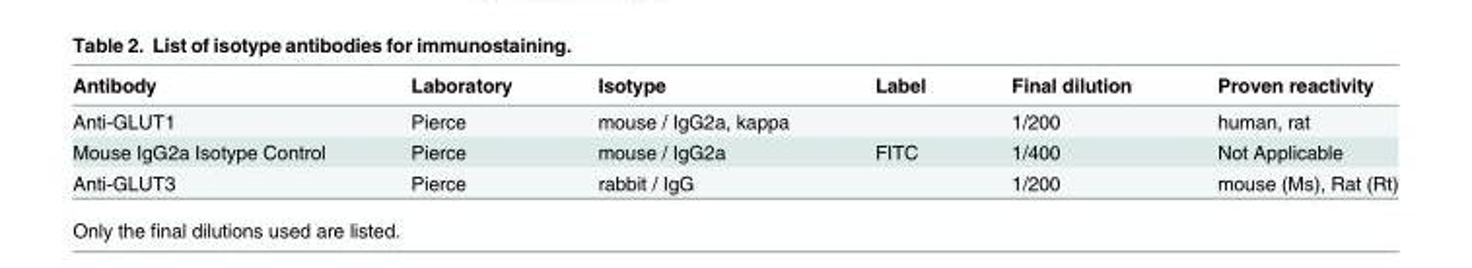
<table><thead><tr><td>Antibody</td><td>Laboratory</td><td>Isotype</td><td>Label</td><td>Final dilution</td><td>Proven reactivity</td></tr></thead><tbody><tr><td>Anti-GLUT1</td><td>Pierce</td><td>mouse / IgG2a, kappa</td><td></td><td>1/200</td><td>human, rat</td></tr><tr><td>Mouse IgG2a Isotype Control</td><td>Pierce</td><td>mouse / IgG2a</td><td>FITC</td><td>1/400</td><td>Not Applicable</td></tr><tr><td>Anti-GLUT3</td><td>Pierce</td><td>rabbit / IgG</td><td></td><td>1/200</td><td>mouse (Ms), Rat (Rt)</td></tr></tbody></table>